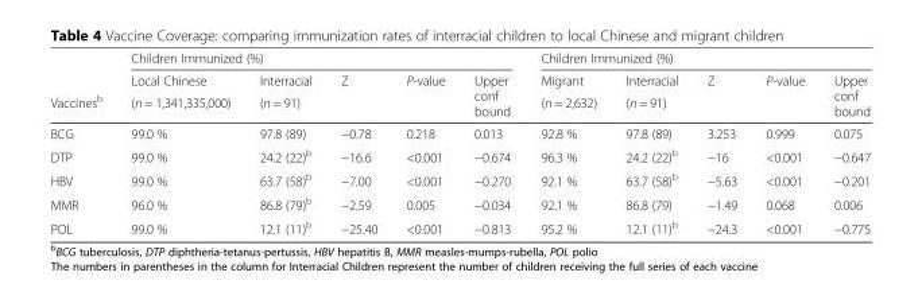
<table><thead><tr><td rowspan="3">Vaccines<sup>b</sup></td><td colspan="5">Children Immunized (%)</td><td colspan="5">Children Immunized (%)</td></tr><tr><td rowspan="2">Local Chinese (n = 1,341,335,000)</td><td rowspan="2">Interracial (n = 91)</td><td rowspan="2">Z</td><td rowspan="2">P-value</td><td rowspan="2">Upper conf bound</td><td rowspan="2">Migrant (n = 2,632)</td><td rowspan="2">Interracial (n = 91)</td><td rowspan="2">Z</td><td rowspan="2">P-value</td><td rowspan="2">Upper conf bound</td></tr><tr></tr></thead><tbody><tr><td>BCG</td><td>99.0 %</td><td>97.8 (89)</td><td>−0.78</td><td>0.218</td><td>0.013</td><td>92.8 %</td><td>97.8 (89)</td><td>3.253</td><td>0.999</td><td>0.075</td></tr><tr><td>DTP</td><td>99.0 %</td><td>24.2 (22)<sup>b</sup></td><td>−16.6</td><td>&lt;0.001</td><td>−0.674</td><td>96.3 %</td><td>24.2 (22)<sup>b</sup></td><td>−16</td><td>&lt;0.001</td><td>−0.647</td></tr><tr><td>HBV</td><td>99.0 %</td><td>63.7 (58)<sup>b</sup></td><td>−7.00</td><td>&lt;0.001</td><td>−0.270</td><td>92.1 %</td><td>63.7 (58)<sup>b</sup></td><td>−5.63</td><td>&lt;0.001</td><td>−0.201</td></tr><tr><td>MMR</td><td>96.0 %</td><td>86.8 (79)<sup>b</sup></td><td>−2.59</td><td>0.005</td><td>−0.034</td><td>92.1 %</td><td>86.8 (79)</td><td>−1.49</td><td>0.068</td><td>0.006</td></tr><tr><td>POL</td><td>99.0 %</td><td>12.1 (11)<sup>b</sup></td><td>−25.40</td><td>&lt;0.001</td><td>−0.813</td><td>95.2 %</td><td>12.1 (11)<sup>b</sup></td><td>−24.3</td><td>&lt;0.001</td><td>−0.775</td></tr></tbody></table>